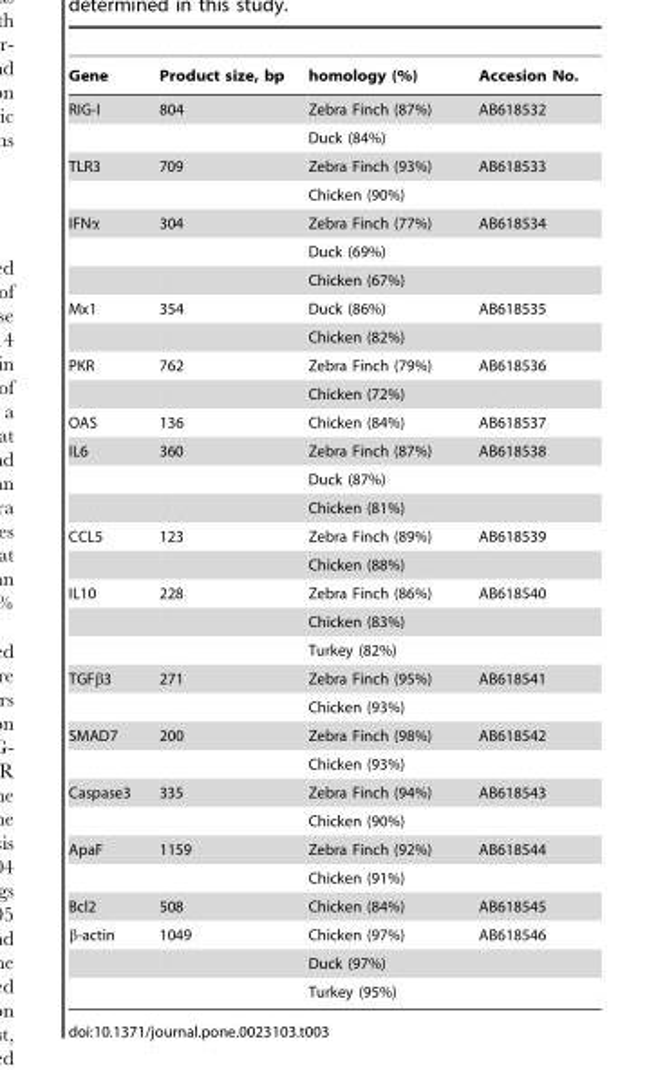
<table><thead><tr><td>Gene</td><td>Product size, bp</td><td>homology (%)</td><td>Accesion No.</td></tr></thead><tbody><tr><td rowspan="2">RIG-I</td><td>804</td><td>Zebra Finch (87%)</td><td>AB618532</td></tr><tr><td></td><td>Duck (84%)</td><td></td></tr><tr><td rowspan="2">TLR3</td><td>709</td><td>Zebra Finch (93%)</td><td>AB618533</td></tr><tr><td></td><td>Chicken (90%)</td><td></td></tr><tr><td rowspan="3">IFNα</td><td>304</td><td>Zebra Finch (77%)</td><td>AB618534</td></tr><tr><td></td><td>Duck (69%)</td><td></td></tr><tr><td></td><td>Chicken (67%)</td><td></td></tr><tr><td rowspan="2">Mx1</td><td>354</td><td>Duck (86%)</td><td>AB618535</td></tr><tr><td></td><td>Chicken (82%)</td><td></td></tr><tr><td rowspan="2">PKR</td><td>762</td><td>Zebra Finch (79%)</td><td>AB618536</td></tr><tr><td></td><td>Chicken (72%)</td><td></td></tr><tr><td>OAS</td><td>136</td><td>Chicken (84%)</td><td>AB618537</td></tr><tr><td rowspan="3">IL6</td><td>360</td><td>Zebra Finch (87%)</td><td>AB618538</td></tr><tr><td></td><td>Duck (87%)</td><td></td></tr><tr><td></td><td>Chicken (81%)</td><td></td></tr><tr><td rowspan="2">CCL5</td><td>123</td><td>Zebra Finch (89%)</td><td>AB618539</td></tr><tr><td></td><td>Chicken (88%)</td><td></td></tr><tr><td rowspan="3">IL10</td><td>228</td><td>Zebra Finch (86%)</td><td>AB618540</td></tr><tr><td></td><td>Chicken (83%)</td><td></td></tr><tr><td></td><td>Turkey (82%)</td><td></td></tr><tr><td rowspan="2">TGFβ3</td><td>271</td><td>Zebra Finch (95%)</td><td>AB618541</td></tr><tr><td></td><td>Chicken (93%)</td><td></td></tr><tr><td rowspan="2">SMAD7</td><td>200</td><td>Zebra Finch (98%)</td><td>AB618542</td></tr><tr><td></td><td>Chicken (93%)</td><td></td></tr><tr><td rowspan="2">Caspase3</td><td>335</td><td>Zebra Finch (94%)</td><td>AB618543</td></tr><tr><td></td><td>Chicken (90%)</td><td></td></tr><tr><td rowspan="2">ApaF</td><td>1159</td><td>Zebra Finch (92%)</td><td>AB618544</td></tr><tr><td></td><td>Chicken (91%)</td><td></td></tr><tr><td>Bcl2</td><td>508</td><td>Chicken (84%)</td><td>AB618545</td></tr><tr><td rowspan="3">β-actin</td><td>1049</td><td>Chicken (97%)</td><td>AB618546</td></tr><tr><td></td><td>Duck (97%)</td><td></td></tr><tr><td></td><td>Turkey (95%)</td><td></td></tr></tbody></table>